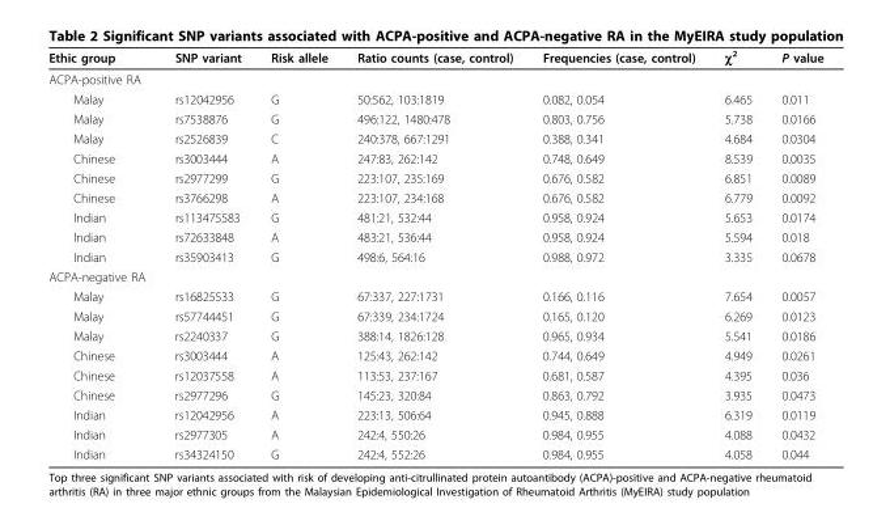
<table><thead><tr><td>Ethic group</td><td>SNP variant</td><td>Risk allele</td><td>Ratio counts (case, control)</td><td>Frequencies (case, control)</td><td>χ<sup>2</sup></td><td>P value</td></tr></thead><tbody><tr><td colspan="7">ACPA-positive RA</td></tr><tr><td>Malay</td><td>rs12042956</td><td>G</td><td>50:562, 103:1819</td><td>0.082, 0.054</td><td>6.465</td><td>0.011</td></tr><tr><td>Malay</td><td>rs7538876</td><td>G</td><td>496:122, 1480:478</td><td>0.803, 0.756</td><td>5.738</td><td>0.0166</td></tr><tr><td>Malay</td><td>rs2526839</td><td>C</td><td>240:378, 667:1291</td><td>0.388, 0.341</td><td>4.684</td><td>0.0304</td></tr><tr><td>Chinese</td><td>rs3003444</td><td>A</td><td>247:83, 262:142</td><td>0.748, 0.649</td><td>8.539</td><td>0.0035</td></tr><tr><td>Chinese</td><td>rs2977299</td><td>G</td><td>223:107, 235:169</td><td>0.676, 0.582</td><td>6.851</td><td>0.0089</td></tr><tr><td>Chinese</td><td>rs3766298</td><td>A</td><td>223:107, 234:168</td><td>0.676, 0.582</td><td>6.779</td><td>0.0092</td></tr><tr><td>Indian</td><td>rs113475583</td><td>G</td><td>481:21, 532:44</td><td>0.958, 0.924</td><td>5.653</td><td>0.0174</td></tr><tr><td>Indian</td><td>rs72633848</td><td>A</td><td>483:21, 536:44</td><td>0.958, 0.924</td><td>5.594</td><td>0.018</td></tr><tr><td>Indian</td><td>rs35903413</td><td>G</td><td>498:6, 564:16</td><td>0.988, 0.972</td><td>3.335</td><td>0.0678</td></tr><tr><td colspan="7">ACPA-negative RA</td></tr><tr><td>Malay</td><td>rs16825533</td><td>G</td><td>67:337, 227:1731</td><td>0.166, 0.116</td><td>7.654</td><td>0.0057</td></tr><tr><td>Malay</td><td>rs57744451</td><td>G</td><td>67:339, 234:1724</td><td>0.165, 0.120</td><td>6.269</td><td>0.0123</td></tr><tr><td>Malay</td><td>rs2240337</td><td>G</td><td>388:14, 1826:128</td><td>0.965, 0.934</td><td>5.541</td><td>0.0186</td></tr><tr><td>Chinese</td><td>rs3003444</td><td>A</td><td>125:43, 262:142</td><td>0.744, 0.649</td><td>4.949</td><td>0.0261</td></tr><tr><td>Chinese</td><td>rs12037558</td><td>A</td><td>113:53, 237:167</td><td>0.681, 0.587</td><td>4.395</td><td>0.036</td></tr><tr><td>Chinese</td><td>rs2977296</td><td>G</td><td>145:23, 320:84</td><td>0.863, 0.792</td><td>3.935</td><td>0.0473</td></tr><tr><td>Indian</td><td>rs12042956</td><td>A</td><td>223:13, 506:64</td><td>0.945, 0.888</td><td>6.319</td><td>0.0119</td></tr><tr><td>Indian</td><td>rs2977305</td><td>A</td><td>242:4, 550:26</td><td>0.984, 0.955</td><td>4.088</td><td>0.0432</td></tr><tr><td>Indian</td><td>rs34324150</td><td>G</td><td>242:4, 552:26</td><td>0.984, 0.955</td><td>4.058</td><td>0.044</td></tr></tbody></table>